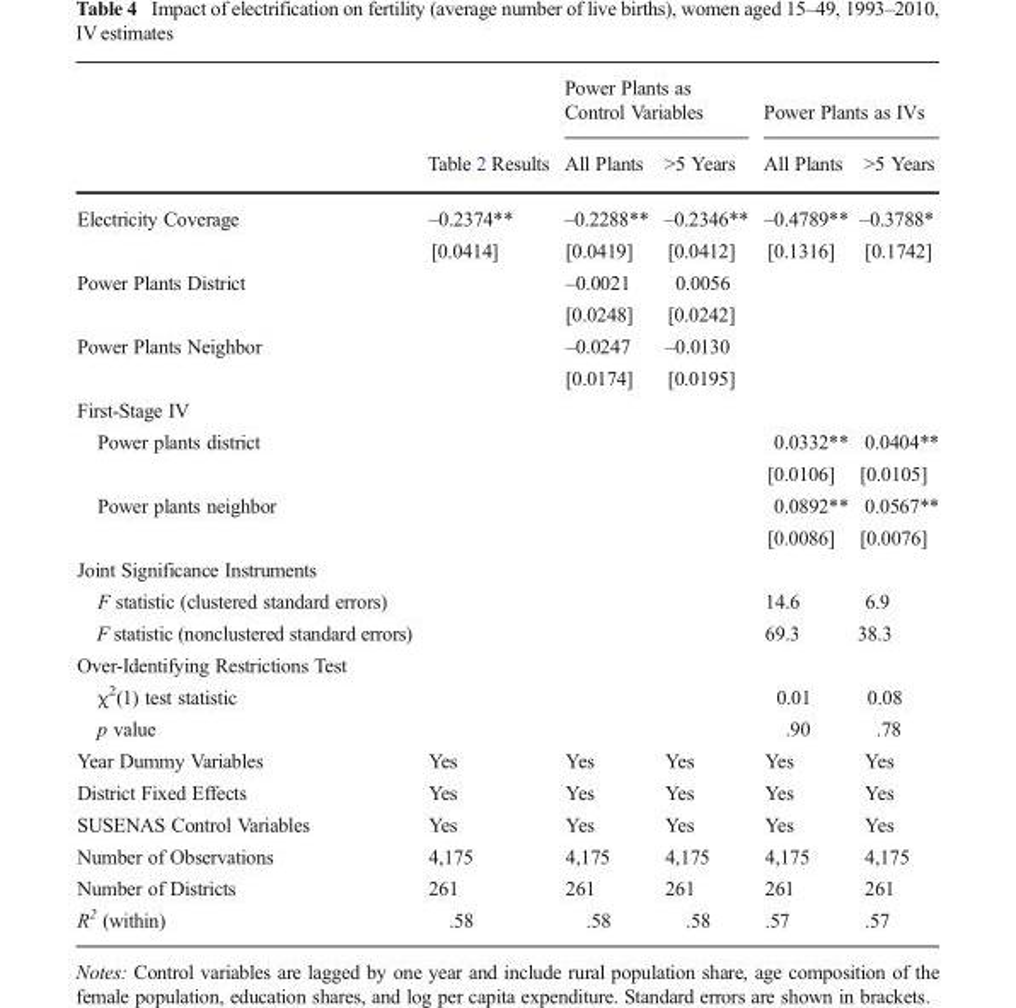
<table><thead><tr><td rowspan="2"></td><td rowspan="2">Table 2 Results</td><td colspan="2">Power Plants as Control Variables</td><td colspan="2">Power Plants as IVs</td></tr><tr><td>All Plants</td><td>&gt;5 Years</td><td>All Plants</td><td>&gt;5 Years</td></tr></thead><tbody><tr><td rowspan="2">Electricity Coverage</td><td>–0.2374**</td><td>–0.2288**</td><td>–0.2346**</td><td>–0.4789**</td><td>–0.3788*</td></tr><tr><td>[0.0414]</td><td>[0.0419]</td><td>[0.0412]</td><td>[0.1316]</td><td>[0.1742]</td></tr><tr><td rowspan="2">Power Plants District</td><td></td><td>–0.0021</td><td>0.0056</td><td></td><td></td></tr><tr><td></td><td>[0.0248]</td><td>[0.0242]</td><td></td><td></td></tr><tr><td rowspan="2">Power Plants Neighbor</td><td></td><td>–0.0247</td><td>–0.0130</td><td></td><td></td></tr><tr><td></td><td>[0.0174]</td><td>[0.0195]</td><td></td><td></td></tr><tr><td colspan="6">First-Stage IV</td></tr><tr><td rowspan="2">Power plants district</td><td></td><td></td><td></td><td>0.0332**</td><td>0.0404**</td></tr><tr><td></td><td></td><td></td><td>[0.0106]</td><td>[0.0105]</td></tr><tr><td rowspan="2">Power plants neighbor</td><td></td><td></td><td></td><td>0.0892**</td><td>0.0567**</td></tr><tr><td></td><td></td><td></td><td>[0.0086]</td><td>[0.0076]</td></tr><tr><td colspan="6">Joint Significance Instruments</td></tr><tr><td>F statistic (clustered standard errors)</td><td></td><td></td><td></td><td>14.6</td><td>6.9</td></tr><tr><td>F statistic (nonclustered standard errors)</td><td></td><td></td><td></td><td>69.3</td><td>38.3</td></tr><tr><td colspan="6">Over-Identifying Restrictions Test</td></tr><tr><td>χ<sup>2</sup>(1) test statistic</td><td></td><td></td><td></td><td>0.01</td><td>0.08</td></tr><tr><td>p value</td><td></td><td></td><td></td><td>.90</td><td>.78</td></tr><tr><td>Year Dummy Variables</td><td>Yes</td><td>Yes</td><td>Yes</td><td>Yes</td><td>Yes</td></tr><tr><td>District Fixed Effects</td><td>Yes</td><td>Yes</td><td>Yes</td><td>Yes</td><td>Yes</td></tr><tr><td>SUSENAS Control Variables</td><td>Yes</td><td>Yes</td><td>Yes</td><td>Yes</td><td>Yes</td></tr><tr><td>Number of Observations</td><td>4,175</td><td>4,175</td><td>4,175</td><td>4,175</td><td>4,175</td></tr><tr><td>Number of Districts</td><td>261</td><td>261</td><td>261</td><td>261</td><td>261</td></tr><tr><td>R<sup>2</sup> (within)</td><td>.58</td><td>.58</td><td>.58</td><td>.57</td><td>.57</td></tr></tbody></table>